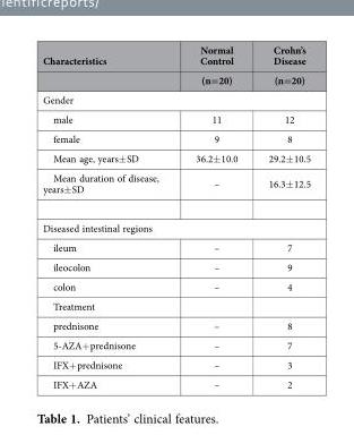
<table><thead><tr><td rowspan="2">Characteristics</td><td rowspan="2">Normal Control (n=20)</td><td rowspan="2">Crohn’s Disease (n=20)</td></tr><tr></tr></thead><tbody><tr><td colspan="3">Gender</td></tr><tr><td>male</td><td>11</td><td>12</td></tr><tr><td>female</td><td>9</td><td>8</td></tr><tr><td>Mean age, years± SD</td><td>36.2± 10.0</td><td>29.2± 10.5</td></tr><tr><td>Mean duration of disease, years± SD</td><td>–</td><td>16.3± 12.5</td></tr><tr><td colspan="3">Diseased intestinal regions</td></tr><tr><td>ileum</td><td>–</td><td>7</td></tr><tr><td>ileocolon</td><td>–</td><td>9</td></tr><tr><td>colon</td><td>–</td><td>4</td></tr><tr><td colspan="3">Treatment</td></tr><tr><td>prednisone</td><td>–</td><td>8</td></tr><tr><td>5-AZA+ prednisone</td><td>–</td><td>7</td></tr><tr><td>IFX+ prednisone</td><td>–</td><td>3</td></tr><tr><td>IFX+ AZA</td><td>–</td><td>2</td></tr></tbody></table>